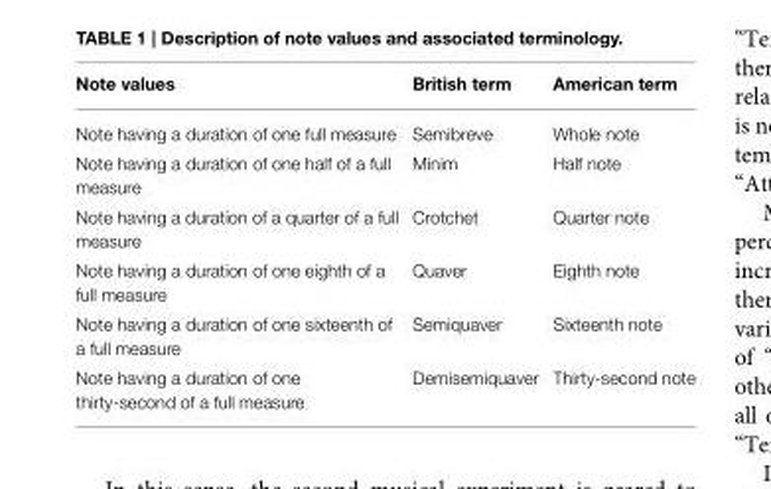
<table><thead><tr><td>Note values</td><td>British term</td><td>American term</td></tr></thead><tbody><tr><td>Note having a duration of one full measure</td><td>Semibreve</td><td>Whole note</td></tr><tr><td>Note having a duration of one half of a full measure</td><td>Minim</td><td>Half note</td></tr><tr><td>Note having a duration of a quarter of a full measure</td><td>Crotchet</td><td>Quarter note</td></tr><tr><td>Note having a duration of one eighth of a full measure</td><td>Quaver</td><td>Eighth note</td></tr><tr><td>Note having a duration of one sixteenth of a full measure</td><td>Semiquaver</td><td>Sixteenth note</td></tr><tr><td>Note having a duration of one thirty-second of a full measure</td><td>Demisemiquaver</td><td>Thirty-second note</td></tr></tbody></table>